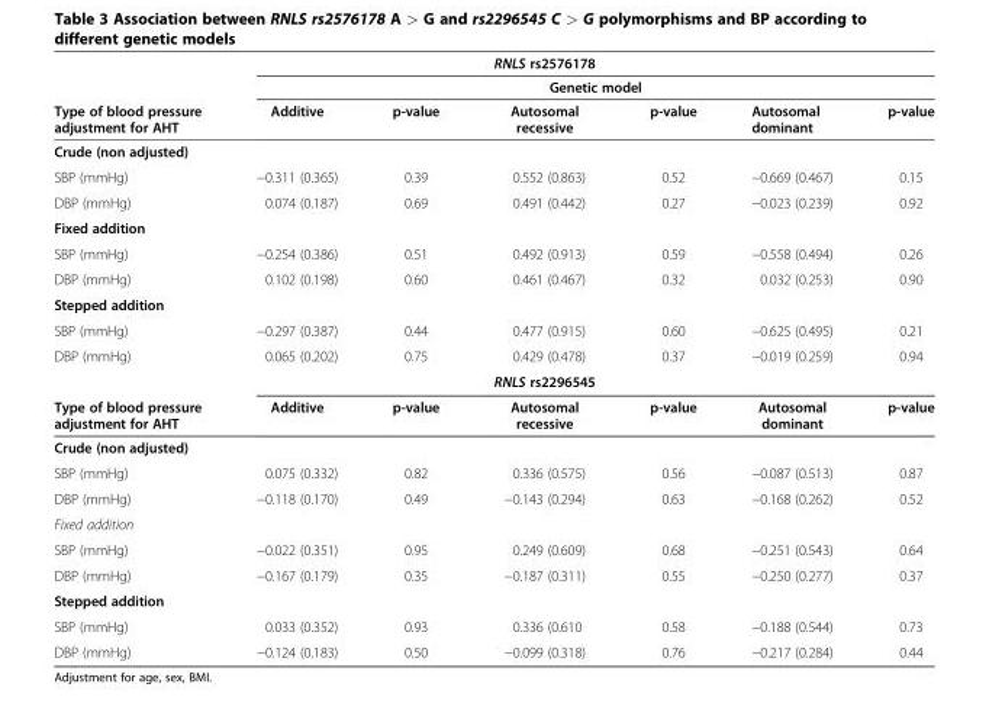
<table><thead><tr><td rowspan="3">Type of blood pressure adjustment for AHT</td><td rowspan="3">Additive</td><td rowspan="3">p-value</td><td rowspan="3">RNLS rs2576178 Genetic model Autosomal recessive</td><td rowspan="3">p-value</td><td rowspan="3">Autosomal dominant</td><td rowspan="3">p-value</td></tr><tr></tr><tr></tr></thead><tbody><tr><td colspan="7">Crude (non adjusted)</td></tr><tr><td>SBP (mmHg)</td><td>−0.311 (0.365)</td><td>0.39</td><td>0.552 (0.863)</td><td>0.52</td><td>−0.669 (0.467)</td><td>0.15</td></tr><tr><td>DBP (mmHg)</td><td>0.074 (0.187)</td><td>0.69</td><td>0.491 (0.442)</td><td>0.27</td><td>−0.023 (0.239)</td><td>0.92</td></tr><tr><td colspan="7">Fixed addition</td></tr><tr><td>SBP (mmHg)</td><td>−0.254 (0.386)</td><td>0.51</td><td>0.492 (0.913)</td><td>0.59</td><td>−0.558 (0.494)</td><td>0.26</td></tr><tr><td>DBP (mmHg)</td><td>0.102 (0.198)</td><td>0.60</td><td>0.461 (0.467)</td><td>0.32</td><td>0.032 (0.253)</td><td>0.90</td></tr><tr><td colspan="7">Stepped addition</td></tr><tr><td>SBP (mmHg)</td><td>−0.297 (0.387)</td><td>0.44</td><td>0.477 (0.915)</td><td>0.60</td><td>−0.625 (0.495)</td><td>0.21</td></tr><tr><td rowspan="2">DBP (mmHg)</td><td>0.065 (0.202)</td><td>0.75</td><td>0.429 (0.478)</td><td>0.37</td><td>−0.019 (0.259)</td><td>0.94</td></tr><tr><td></td><td></td><td>RNLS rs2296545</td><td></td><td></td><td></td></tr><tr><td>Type of blood pressure adjustment for AHT</td><td>Additive</td><td>p-value</td><td>Autosomal recessive</td><td>p-value</td><td>Autosomal dominant</td><td>p-value</td></tr><tr><td colspan="7">Crude (non adjusted)</td></tr><tr><td>SBP (mmHg)</td><td>0.075 (0.332)</td><td>0.82</td><td>0.336 (0.575)</td><td>0.56</td><td>−0.087 (0.513)</td><td>0.87</td></tr><tr><td>DBP (mmHg)</td><td>−0.118 (0.170)</td><td>0.49</td><td>−0.143 (0.294)</td><td>0.63</td><td>−0.168 (0.262)</td><td>0.52</td></tr><tr><td colspan="7">Fixed addition</td></tr><tr><td>SBP (mmHg)</td><td>−0.022 (0.351)</td><td>0.95</td><td>0.249 (0.609)</td><td>0.68</td><td>−0.251 (0.543)</td><td>0.64</td></tr><tr><td>DBP (mmHg)</td><td>−0.167 (0.179)</td><td>0.35</td><td>−0.187 (0.311)</td><td>0.55</td><td>−0.250 (0.277)</td><td>0.37</td></tr><tr><td colspan="7">Stepped addition</td></tr><tr><td>SBP (mmHg)</td><td>0.033 (0.352)</td><td>0.93</td><td>0.336 (0.610</td><td>0.58</td><td>−0.188 (0.544)</td><td>0.73</td></tr><tr><td>DBP (mmHg)</td><td>−0.124 (0.183)</td><td>0.50</td><td>−0.099 (0.318)</td><td>0.76</td><td>−0.217 (0.284)</td><td>0.44</td></tr></tbody></table>